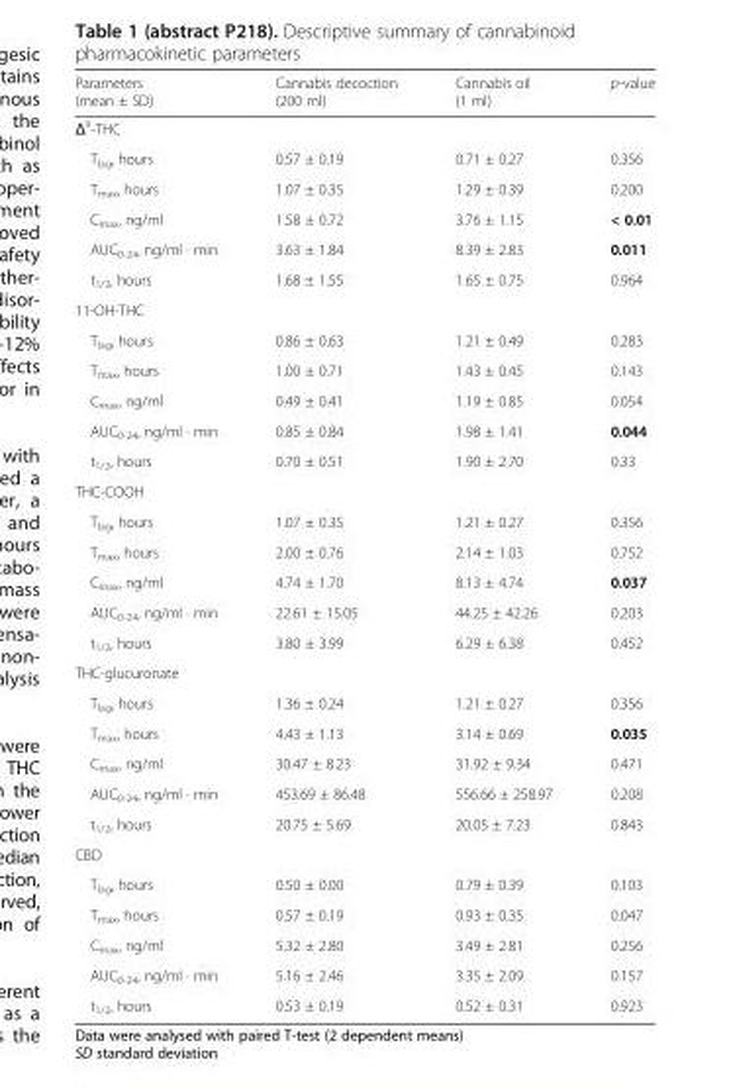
<table><thead><tr><td>Parameters (mean ± SD)</td><td>Cannabis decoction (200 ml)</td><td>Cannabis oil (1 ml)</td><td>p-value</td></tr></thead><tbody><tr><td colspan="4">Δ<sup>9</sup>-THC</td></tr><tr><td>T<sub>lag</sub>, hours</td><td>0.57 ± 0.19</td><td>0.71 ± 0.27</td><td>0.356</td></tr><tr><td>T<sub>max</sub>, hours</td><td>1.07 ± 0.35</td><td>1.29 ± 0.39</td><td>0.200</td></tr><tr><td>C<sub>max</sub>, ng/ml</td><td>1.58 ± 0.72</td><td>3.76 ± 1.15</td><td>&lt; 0.01</td></tr><tr><td>AUC<sub>0-24</sub>, ng/ml · min</td><td>3.63 ± 1.84</td><td>8.39 ± 2.83</td><td>0.011</td></tr><tr><td>t<sub>1/2</sub>, hours</td><td>1.68 ± 1.55</td><td>1.65 ± 0.75</td><td>0.964</td></tr><tr><td colspan="4">11-OH-THC</td></tr><tr><td>T<sub>lag</sub>, hours</td><td>0.86 ± 0.63</td><td>1.21 ± 0.49</td><td>0.283</td></tr><tr><td>T<sub>max</sub>, hours</td><td>1.00 ± 0.71</td><td>1.43 ± 0.45</td><td>0.143</td></tr><tr><td>C<sub>max</sub>, ng/ml</td><td>0.49 ± 0.41</td><td>1.19 ± 0.85</td><td>0.054</td></tr><tr><td>AUC<sub>0-24</sub>, ng/ml · min</td><td>0.85 ± 0.84</td><td>1.98 ± 1.41</td><td>0.044</td></tr><tr><td>t<sub>1/2</sub>, hours</td><td>0.70 ± 0.51</td><td>1.90 ± 2.70</td><td>0.33</td></tr><tr><td colspan="4">THC-COOH</td></tr><tr><td>T<sub>lag</sub>, hours</td><td>1.07 ± 0.35</td><td>1.21 ± 0.27</td><td>0.356</td></tr><tr><td>T<sub>max</sub>, hours</td><td>2.00 ± 0.76</td><td>2.14 ± 1.03</td><td>0.752</td></tr><tr><td>C<sub>max</sub>, ng/ml</td><td>4.74 ± 1.70</td><td>8.13 ± 4.74</td><td>0.037</td></tr><tr><td>AUC<sub>0-24</sub>, ng/ml · min</td><td>22.61 ± 15.05</td><td>44.25 ± 42.26</td><td>0.203</td></tr><tr><td>t<sub>1/2</sub>, hours</td><td>3.80 ± 3.99</td><td>6.29 ± 6.38</td><td>0.452</td></tr><tr><td colspan="4">THC-glucuronate</td></tr><tr><td>T<sub>lag</sub>, hours</td><td>1.36 ± 0.24</td><td>1.21 ± 0.27</td><td>0.356</td></tr><tr><td>T<sub>max</sub>, hours</td><td>4.43 ± 1.13</td><td>3.14 ± 0.69</td><td>0.035</td></tr><tr><td>C<sub>max</sub>, ng/ml</td><td>30.47 ± 8.23</td><td>31.92 ± 9.34</td><td>0.471</td></tr><tr><td>AUC<sub>0-24</sub>, ng/ml · min</td><td>453.69 ± 86.48</td><td>556.66 ± 258.97</td><td>0.208</td></tr><tr><td>t<sub>1/2</sub>, hours</td><td>20.75 ± 5.69</td><td>20.05 ± 7.23</td><td>0.843</td></tr><tr><td colspan="4">CBD</td></tr><tr><td>T<sub>lag</sub>, hours</td><td>0.50 ± 0.00</td><td>0.79 ± 0.39</td><td>0.103</td></tr><tr><td>T<sub>max</sub>, hours</td><td>0.57 ± 0.19</td><td>0.93 ± 0.35</td><td>0.047</td></tr><tr><td>C<sub>max</sub>, ng/ml</td><td>5.32 ± 2.80</td><td>3.49 ± 2.81</td><td>0.256</td></tr><tr><td>AUC<sub>0-24</sub>, ng/ml · min</td><td>5.16 ± 2.46</td><td>3.35 ± 2.09</td><td>0.157</td></tr><tr><td>t<sub>1/2</sub>, hours</td><td>0.53 ± 0.19</td><td>0.52 ± 0.31</td><td>0.923</td></tr></tbody></table>